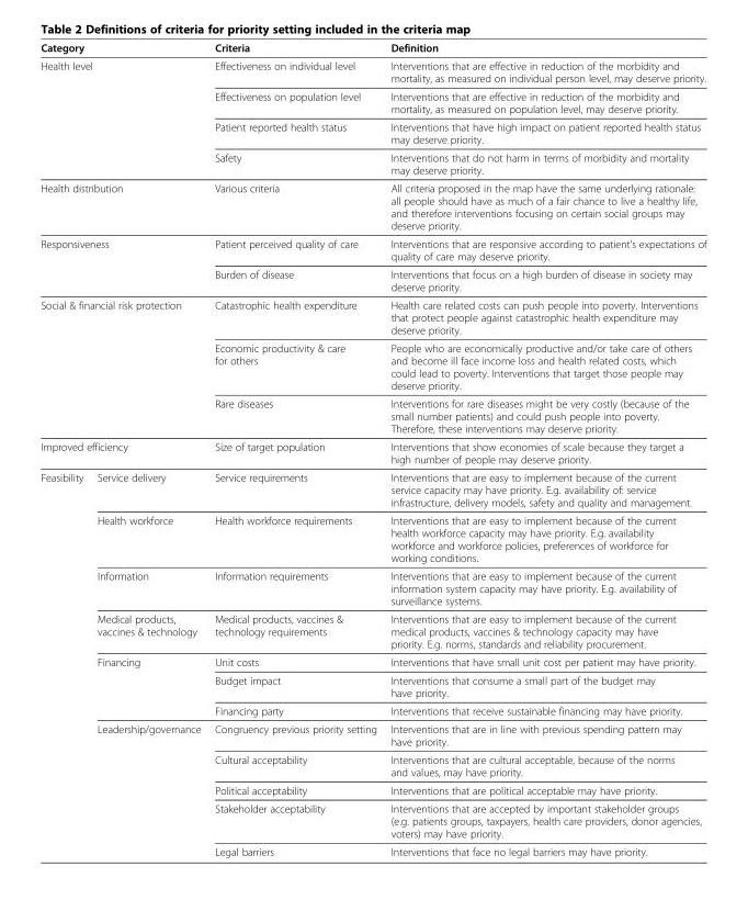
<table><thead><tr><td colspan="2">Category</td><td>Criteria</td><td>Definition</td></tr></thead><tbody><tr><td rowspan="4" colspan="2">Health level</td><td>Effectiveness on individual level</td><td>Interventions that are effective in reduction of the morbidity and mortality, as measured on individual person level, may deserve priority.</td></tr><tr><td>Effectiveness on population level</td><td>Interventions that are effective in reduction of the morbidity and mortality, as measured on population level, may deserve priority.</td></tr><tr><td>Patient reported health status</td><td>Interventions that have high impact on patient reported health status may deserve priority.</td></tr><tr><td>Safety</td><td>Interventions that do not harm in terms of morbidity and mortality may deserve priority.</td></tr><tr><td colspan="2">Health distribution</td><td>Various criteria</td><td>All criteria proposed in the map have the same underlying rationale: all people should have as much of a fair chance to live a healthy life, and therefore interventions focusing on certain social groups may deserve priority.</td></tr><tr><td rowspan="2" colspan="2">Responsiveness</td><td>Patient perceived quality of care</td><td>Interventions that are responsive according to patient’s expectations of quality of care may deserve priority.</td></tr><tr><td>Burden of disease</td><td>Interventions that focus on a high burden of disease in society may deserve priority.</td></tr><tr><td rowspan="3" colspan="2">Social &amp; financial risk protection</td><td>Catastrophic health expenditure</td><td>Health care related costs can push people into poverty. Interventions that protect people against catastrophic health expenditure may deserve priority.</td></tr><tr><td>Economic productivity &amp; care for others</td><td>People who are economically productive and/or take care of others and become ill face income loss and health related costs, which could lead to poverty. Interventions that target those people may deserve priority.</td></tr><tr><td>Rare diseases</td><td>Interventions for rare diseases might be very costly (because of the small number patients) and could push people into poverty. Therefore, these interventions may deserve priority.</td></tr><tr><td colspan="2">Improved efficiency</td><td>Size of target population</td><td>Interventions that show economies of scale because they target a high number of people may deserve priority.</td></tr><tr><td rowspan="12">Feasibility</td><td>Service delivery</td><td>Service requirements</td><td>Interventions that are easy to implement because of the current service capacity may have priority. E.g. availability of: service infrastructure, delivery models, safety and quality and management.</td></tr><tr><td>Health workforce</td><td>Health workforce requirements</td><td>Interventions that are easy to implement because of the current health workforce capacity may have priority. E.g. availability workforce and workforce policies, preferences of workforce for working conditions.</td></tr><tr><td>Information</td><td>Information requirements</td><td>Interventions that are easy to implement because of the current information system capacity may have priority. E.g. availability of surveillance systems.</td></tr><tr><td>Medical products, vaccines &amp; technology</td><td>Medical products, vaccines &amp; technology requirements</td><td>Interventions that are easy to implement because of the current medical products, vaccines &amp; technology capacity may have priority. E.g. norms, standards and reliability procurement.</td></tr><tr><td rowspan="3">Financing</td><td>Unit costs</td><td>Interventions that have small unit cost per patient may have priority.</td></tr><tr><td>Budget impact</td><td>Interventions that consume a small part of the budget may have priority.</td></tr><tr><td>Financing party</td><td>Interventions that receive sustainable financing may have priority.</td></tr><tr><td rowspan="5">Leadership/governance</td><td>Congruency previous priority setting</td><td>Interventions that are in line with previous spending pattern may have priority.</td></tr><tr><td>Cultural acceptability</td><td>Interventions that are cultural acceptable, because of the norms and values, may have priority.</td></tr><tr><td>Political acceptability</td><td>Interventions that are political acceptable may have priority.</td></tr><tr><td>Stakeholder acceptability</td><td>Interventions that are accepted by important stakeholder groups (e.g. patients groups, taxpayers, health care providers, donor agencies, voters) may have priority.</td></tr><tr><td>Legal barriers</td><td>Interventions that face no legal barriers may have priority.</td></tr></tbody></table>